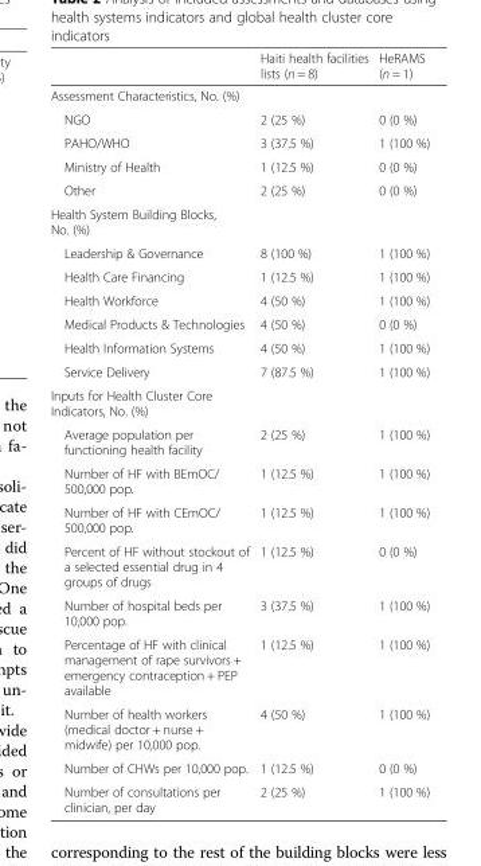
<table><thead><tr><td></td><td>Haiti health facilities lists (n = 8)</td><td>HeRAMS (n = 1)</td></tr></thead><tbody><tr><td colspan="3">Assessment Characteristics, No. (%)</td></tr><tr><td>NGO</td><td>2 (25 %)</td><td>0 (0 %)</td></tr><tr><td>PAHO/WHO</td><td>3 (37.5 %)</td><td>1 (100 %)</td></tr><tr><td>Ministry of Health</td><td>1 (12.5 %)</td><td>0 (0 %)</td></tr><tr><td>Other</td><td>2 (25 %)</td><td>0 (0 %)</td></tr><tr><td colspan="3">Health System Building Blocks, No. (%)</td></tr><tr><td>Leadership &amp; Governance</td><td>8 (100 %)</td><td>1 (100 %)</td></tr><tr><td>Health Care Financing</td><td>1 (12.5 %)</td><td>1 (100 %)</td></tr><tr><td>Health Workforce</td><td>4 (50 %)</td><td>1 (100 %)</td></tr><tr><td>Medical Products &amp; Technologies</td><td>4 (50 %)</td><td>0 (0 %)</td></tr><tr><td>Health Information Systems</td><td>4 (50 %)</td><td>1 (100 %)</td></tr><tr><td>Service Delivery</td><td>7 (87.5 %)</td><td>1 (100 %)</td></tr><tr><td colspan="3">Inputs for Health Cluster Core Indicators, No. (%)</td></tr><tr><td>Average population per functioning health facility</td><td>2 (25 %)</td><td>1 (100 %)</td></tr><tr><td>Number of HF with BEmOC/ 500,000 pop.</td><td>1 (12.5 %)</td><td>1 (100 %)</td></tr><tr><td>Number of HF with CEmOC/ 500,000 pop.</td><td>1 (12.5 %)</td><td>1 (100 %)</td></tr><tr><td>Percent of HF without stockout of a selected essential drug in 4 groups of drugs</td><td>1 (12.5 %)</td><td>0 (0 %)</td></tr><tr><td>Number of hospital beds per 10,000 pop.</td><td>3 (37.5 %)</td><td>1 (100 %)</td></tr><tr><td>Percentage of HF with clinical management of rape survivors + emergency contraception + PEP available</td><td>1 (12.5 %)</td><td>1 (100 %)</td></tr><tr><td>Number of health workers (medical doctor + nurse + midwife) per 10,000 pop.</td><td>4 (50 %)</td><td>1 (100 %)</td></tr><tr><td>Number of CHWs per 10,000 pop.</td><td>1 (12.5 %)</td><td>0 (0 %)</td></tr><tr><td>Number of consultations per clinician, per day</td><td>2 (25 %)</td><td>1 (100 %)</td></tr></tbody></table>